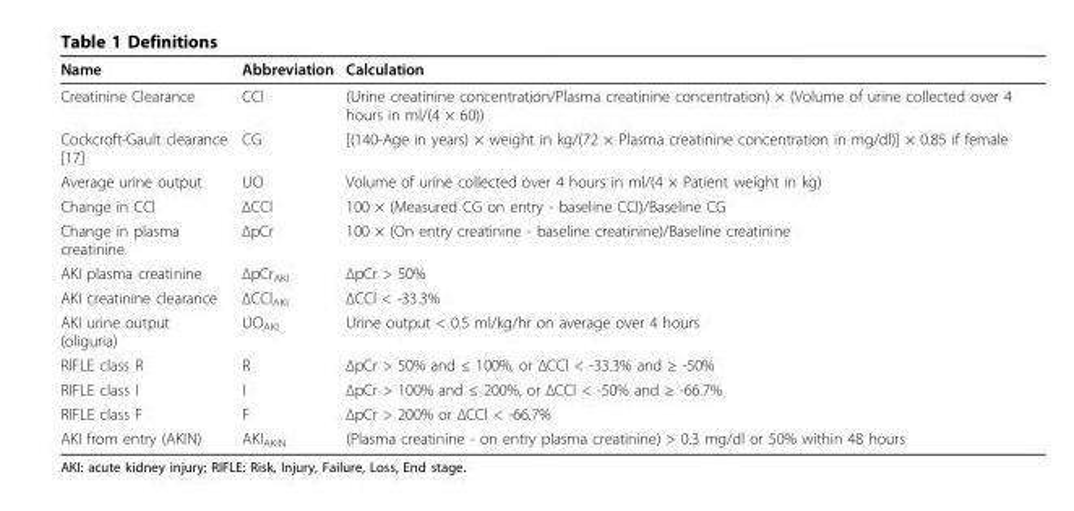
<table><thead><tr><td>Name</td><td>Abbreviation</td><td>Calculation</td></tr></thead><tbody><tr><td>Creatinine Clearance</td><td>CCl</td><td>(Urine creatinine concentration/Plasma creatinine concentration) × (Volume of urine collected over 4 hours in ml/(4 × 60))</td></tr><tr><td>Cockcroft-Gault clearance [17]</td><td>CG</td><td>[(140-Age in years) × weight in kg/(72 × Plasma creatinine concentration in mg/dl)] × 0.85 if female</td></tr><tr><td>Average urine output</td><td>UO</td><td>Volume of urine collected over 4 hours in ml/(4 × Patient weight in kg)</td></tr><tr><td>Change in CCl</td><td>ΔCCl</td><td>100 × (Measured CG on entry - baseline CCl)/Baseline CG</td></tr><tr><td>Change in plasma creatinine</td><td>ΔpCr</td><td>100 × (On entry creatinine - baseline creatinine)/Baseline creatinine</td></tr><tr><td>AKI plasma creatinine</td><td>ΔpCr<sub>AKI</sub></td><td>ΔpCr &gt; 50%</td></tr><tr><td>AKI creatinine clearance</td><td>ΔCCl<sub>AKI</sub></td><td>ΔCCl &lt; -33.3%</td></tr><tr><td>AKI urine output (oliguria)</td><td>UO<sub>AKI</sub></td><td>Urine output &lt; 0.5 ml/kg/hr on average over 4 hours</td></tr><tr><td>RIFLE class R</td><td>R</td><td>ΔpCr &gt; 50% and ≤ 100%, or ΔCCl &lt; -33.3% and ≥ -50%</td></tr><tr><td>RIFLE class I</td><td>I</td><td>ΔpCr &gt; 100% and ≤ 200%, or ΔCCl &lt; -50% and ≥ -66.7%</td></tr><tr><td>RIFLE class F</td><td>F</td><td>ΔpCr &gt; 200% or ΔCCl &lt; -66.7%</td></tr><tr><td>AKI from entry (AKIN)</td><td>AKI<sub>AKIN</sub></td><td>(Plasma creatinine - on entry plasma creatinine) &gt; 0.3 mg/dl or 50% within 48 hours</td></tr></tbody></table>